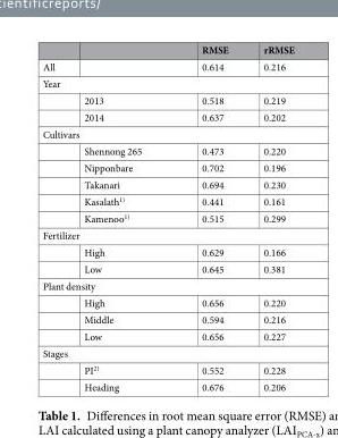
<table><thead><tr><td></td><td></td><td>RMSE</td><td>rRMSE</td></tr></thead><tbody><tr><td>All</td><td></td><td>0.614</td><td>0.216</td></tr><tr><td colspan="4">Year</td></tr><tr><td></td><td>2013</td><td>0.518</td><td>0.219</td></tr><tr><td></td><td>2014</td><td>0.637</td><td>0.202</td></tr><tr><td colspan="4">Cultivars</td></tr><tr><td></td><td>Shennong 265</td><td>0.473</td><td>0.220</td></tr><tr><td></td><td>Nipponbare</td><td>0.702</td><td>0.196</td></tr><tr><td></td><td>Takanari</td><td>0.694</td><td>0.230</td></tr><tr><td></td><td>Kasalath<sup>1)</sup></td><td>0.441</td><td>0.161</td></tr><tr><td></td><td>Kamenoo<sup>1)</sup></td><td>0.515</td><td>0.299</td></tr><tr><td colspan="4">Fertilizer</td></tr><tr><td></td><td>High</td><td>0.629</td><td>0.166</td></tr><tr><td></td><td>Low</td><td>0.645</td><td>0.381</td></tr><tr><td colspan="4">Plant density</td></tr><tr><td></td><td>High</td><td>0.656</td><td>0.220</td></tr><tr><td></td><td>Middle</td><td>0.594</td><td>0.216</td></tr><tr><td></td><td>Low</td><td>0.656</td><td>0.227</td></tr><tr><td colspan="4">Stages</td></tr><tr><td></td><td>PI<sup>2)</sup></td><td>0.552</td><td>0.228</td></tr><tr><td></td><td>Heading</td><td>0.676</td><td>0.206</td></tr></tbody></table>